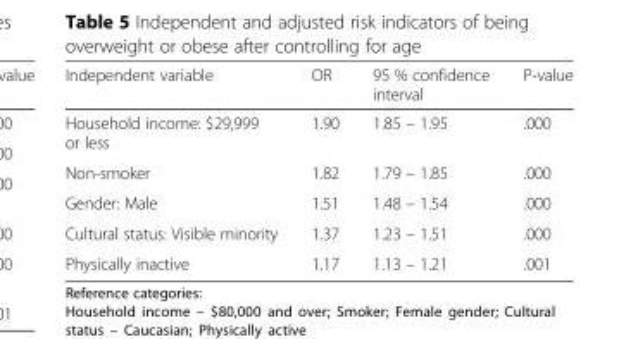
<table><thead><tr><td>Independent variable</td><td>OR</td><td>95 % confidence interval</td><td>P-value</td></tr></thead><tbody><tr><td>Household income: $29,999 or less</td><td>1.90</td><td>1.85 – 1.95</td><td>.000</td></tr><tr><td>Non-smoker</td><td>1.82</td><td>1.79 – 1.85</td><td>.000</td></tr><tr><td>Gender: Male</td><td>1.51</td><td>1.48 – 1.54</td><td>.000</td></tr><tr><td>Cultural status: Visible minority</td><td>1.37</td><td>1.23 – 1.51</td><td>.000</td></tr><tr><td>Physically inactive</td><td>1.17</td><td>1.13 – 1.21</td><td>.001</td></tr></tbody></table>